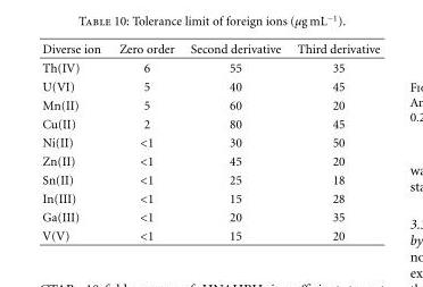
<table><thead><tr><td>Diverse ion</td><td>Zero order</td><td>Second derivative</td><td>Third derivative</td></tr></thead><tbody><tr><td>Th(IV)</td><td>6</td><td>55</td><td>35</td></tr><tr><td>U(VI)</td><td>5</td><td>40</td><td>45</td></tr><tr><td>Mn(II)</td><td>5</td><td>60</td><td>20</td></tr><tr><td>Cu(II)</td><td>2</td><td>80</td><td>45</td></tr><tr><td>Ni(II)</td><td>&lt;1</td><td>30</td><td>50</td></tr><tr><td>Zn(II)</td><td>&lt;1</td><td>45</td><td>20</td></tr><tr><td>Sn(II)</td><td>&lt;1</td><td>25</td><td>18</td></tr><tr><td>In(III)</td><td>&lt;1</td><td>15</td><td>28</td></tr><tr><td>Ga(III)</td><td>&lt;1</td><td>20</td><td>35</td></tr><tr><td>V(V)</td><td>&lt;1</td><td>15</td><td>20</td></tr></tbody></table>